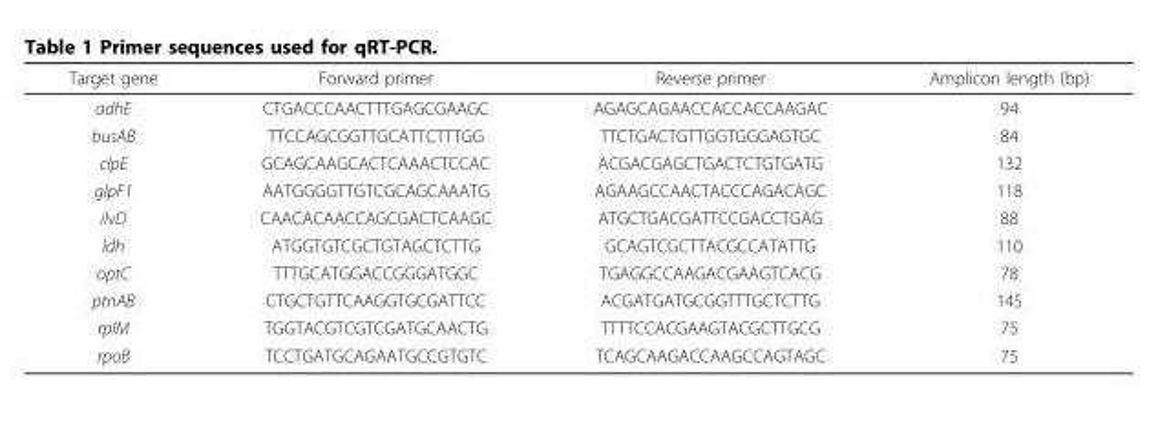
<table><thead><tr><td>Target gene</td><td>Forward primer</td><td>Reverse primer</td><td>Amplicon length (bp)</td></tr></thead><tbody><tr><td>adhE</td><td>CTGACCCAACTTTGAGCGAAGC</td><td>AGAGCAGAACCACCACCAAGAC</td><td>94</td></tr><tr><td>busAB</td><td>TTCCAGCGGTTGCATTCTTTGG</td><td>TTCTGACTGTTGGTGGGAGTGC</td><td>84</td></tr><tr><td>clpE</td><td>GCAGCAAGCACTCAAACTCCAC</td><td>ACGACGAGCTGACTCTGTGATG</td><td>132</td></tr><tr><td>glpF1</td><td>AATGGGGTTGTCGCAGCAAATG</td><td>AGAAGCCAACTACCCAGACAGC</td><td>118</td></tr><tr><td>ilvD</td><td>CAACACAACCAGCGACTCAAGC</td><td>ATGCTGACGATTCCGACCTGAG</td><td>88</td></tr><tr><td>ldh</td><td>ATGGTGTCGCTGTAGCTCTTG</td><td>GCAGTCGCTTACGCCATATTG</td><td>110</td></tr><tr><td>optC</td><td>TTTGCATGGACCGGGATGGC</td><td>TGAGGCCAAGACGAAGTCACG</td><td>78</td></tr><tr><td>ptnAB</td><td>CTGCTGTTCAAGGTGCGATTCC</td><td>ACGATGATGCGGTTTGCTCTTG</td><td>145</td></tr><tr><td>rplM</td><td>TGGTACGTCGTCGATGCAACTG</td><td>TTTTCCACGAAGTACGCTTGCG</td><td>75</td></tr><tr><td>rpoB</td><td>TCCTGATGCAGAATGCCGTGTC</td><td>TCAGCAAGACCAAGCCAGTAGC</td><td>75</td></tr></tbody></table>